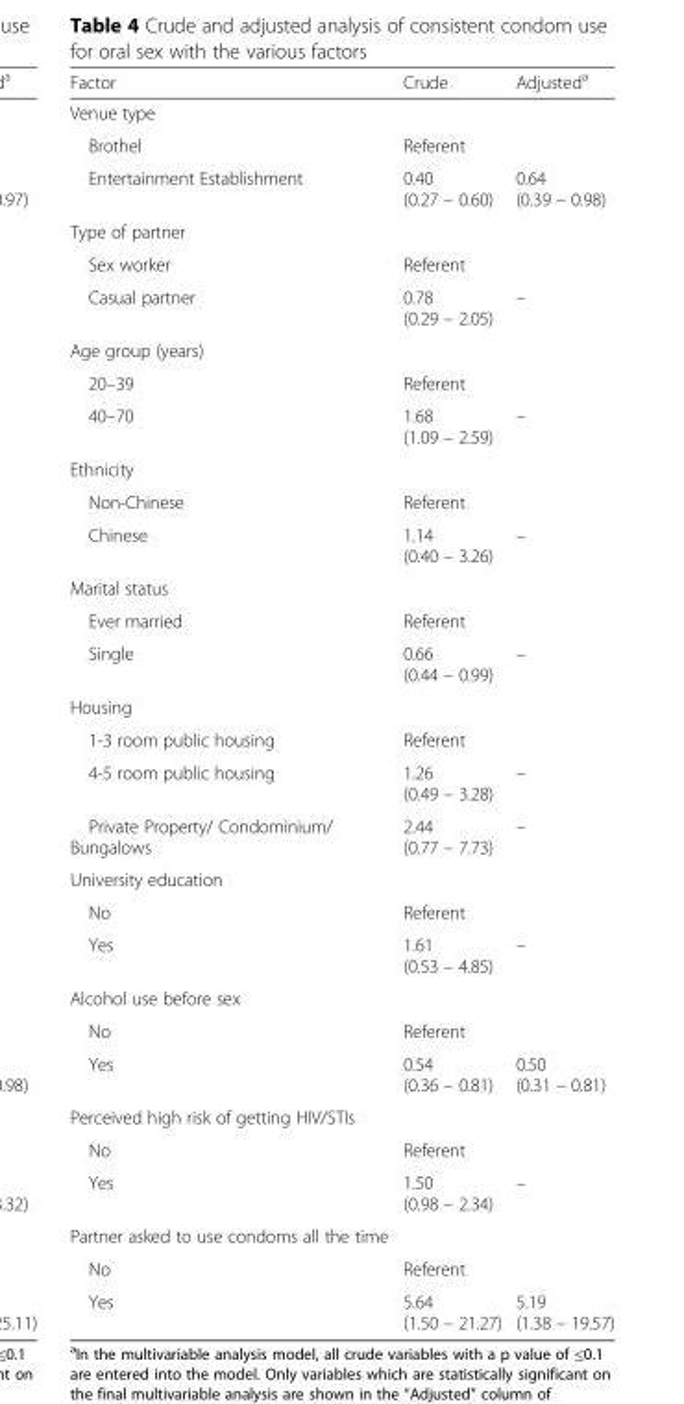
<table><thead><tr><td>Factor</td><td>Crude</td><td>Adjusted<sup>a</sup></td></tr></thead><tbody><tr><td colspan="3">Venue type</td></tr><tr><td>Brothel</td><td>Referent</td><td></td></tr><tr><td>Entertainment Establishment</td><td>0.40 (0.27 – 0.60)</td><td>0.64 (0.39 – 0.98)</td></tr><tr><td colspan="3">Type of partner</td></tr><tr><td>Sex worker</td><td>Referent</td><td></td></tr><tr><td>Casual partner</td><td>0.78 (0.29 – 2.05)</td><td>–</td></tr><tr><td colspan="3">Age group (years)</td></tr><tr><td>20–39</td><td>Referent</td><td></td></tr><tr><td>40–70</td><td>1.68 (1.09 – 2.59)</td><td>–</td></tr><tr><td colspan="3">Ethnicity</td></tr><tr><td>Non-Chinese</td><td>Referent</td><td></td></tr><tr><td>Chinese</td><td>1.14 (0.40 – 3.26)</td><td>–</td></tr><tr><td colspan="3">Marital status</td></tr><tr><td>Ever married</td><td>Referent</td><td></td></tr><tr><td>Single</td><td>0.66 (0.44 – 0.99)</td><td>–</td></tr><tr><td colspan="3">Housing</td></tr><tr><td>1-3 room public housing</td><td>Referent</td><td></td></tr><tr><td>4-5 room public housing</td><td>1.26 (0.49 – 3.28)</td><td>–</td></tr><tr><td>Private Property/ Condominium/ Bungalows</td><td>2.44 (0.77 – 7.73)</td><td>–</td></tr><tr><td colspan="3">University education</td></tr><tr><td>No</td><td>Referent</td><td></td></tr><tr><td>Yes</td><td>1.61 (0.53 – 4.85)</td><td>–</td></tr><tr><td colspan="3">Alcohol use before sex</td></tr><tr><td>No</td><td>Referent</td><td></td></tr><tr><td>Yes</td><td>0.54 (0.36 – 0.81)</td><td>0.50 (0.31 – 0.81)</td></tr><tr><td colspan="3">Perceived high risk of getting HIV/STIs</td></tr><tr><td>No</td><td>Referent</td><td></td></tr><tr><td>Yes</td><td>1.50 (0.98 – 2.34)</td><td>–</td></tr><tr><td colspan="3">Partner asked to use condoms all the time</td></tr><tr><td>No</td><td>Referent</td><td></td></tr><tr><td>Yes</td><td>5.64 (1.50 – 21.27)</td><td>5.19 (1.38 – 19.57)</td></tr></tbody></table>